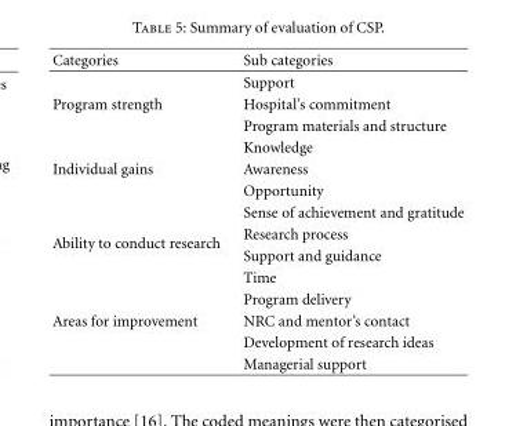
<table><thead><tr><td>Categories</td><td>Sub categories</td></tr></thead><tbody><tr><td></td><td>Support</td></tr><tr><td rowspan="3">Program strength</td><td>Hospital’s commitment</td></tr><tr><td>Program materials and structure</td></tr><tr><td>Knowledge</td></tr><tr><td rowspan="3">Individual gains</td><td>Awareness</td></tr><tr><td>Opportunity</td></tr><tr><td>Sense of achievement and gratitude</td></tr><tr><td rowspan="4">Ability to conduct research</td><td>Research process</td></tr><tr><td>Support and guidance</td></tr><tr><td>Time</td></tr><tr><td>Program delivery</td></tr><tr><td rowspan="3">Areas for improvement</td><td>NRC and mentor’s contact</td></tr><tr><td>Development of research ideas</td></tr><tr><td>Managerial support</td></tr></tbody></table>